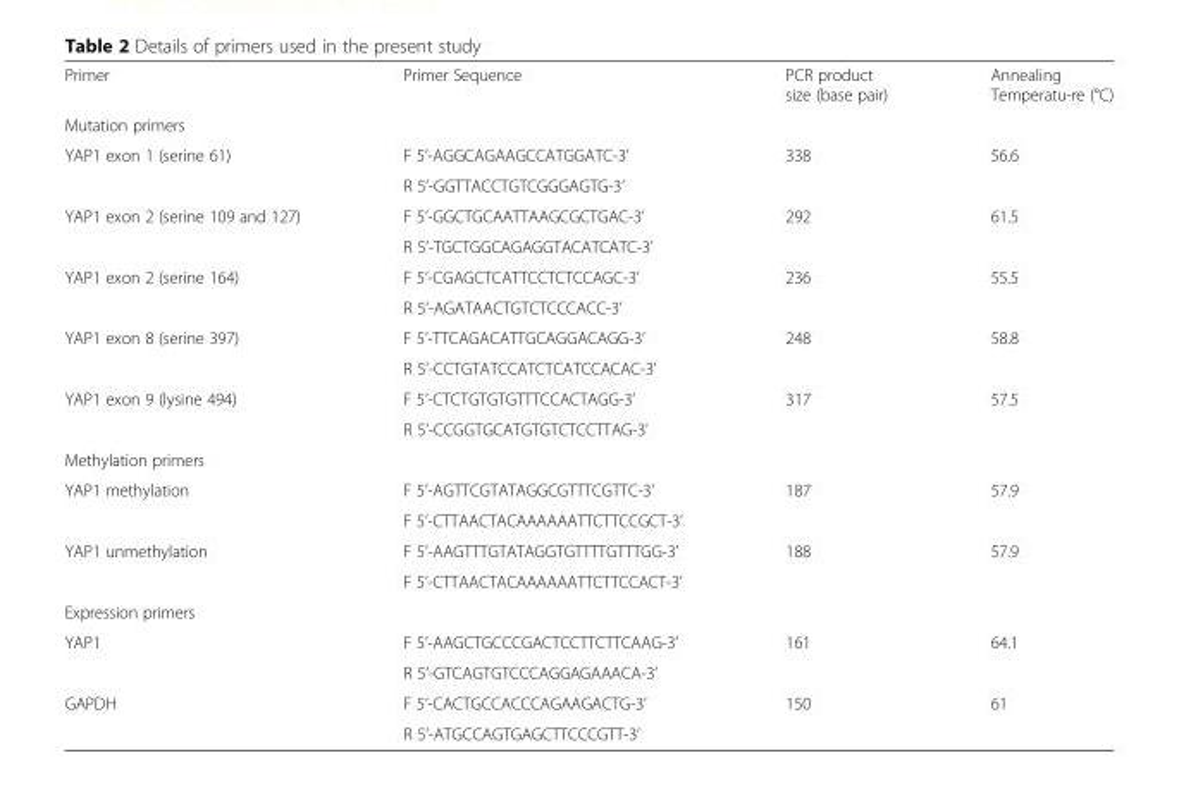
<table><tbody><tr><td>Primer</td><td>Primer Sequence</td><td>PCR product size (base pair)</td><td>Annealing Temperatu-re (°C)</td></tr><tr><td colspan="4">Mutation primers</td></tr><tr><td rowspan="2">YAP1 exon 1 (serine 61)</td><td>F 5’-AGGCAGAAGCCATGGATC-3’</td><td rowspan="2">338</td><td rowspan="2">56.6</td></tr><tr><td>R 5’-GGTTACCTGTCGGGAGTG-3’</td></tr><tr><td rowspan="2">YAP1 exon 2 (serine 109 and 127)</td><td>F 5’-GGCTGCAATTAAGCGCTGAC-3’</td><td rowspan="2">292</td><td rowspan="2">61.5</td></tr><tr><td>R 5’-TGCTGGCAGAGGTACATCATC-3’</td></tr><tr><td rowspan="2">YAP1 exon 2 (serine 164)</td><td>F 5’-CGAGCTCATTCCTCTCCAGC-3’</td><td rowspan="2">236</td><td rowspan="2">55.5</td></tr><tr><td>R 5’-AGATAACTGTCTCCCACC-3’</td></tr><tr><td rowspan="2">YAP1 exon 8 (serine 397)</td><td>F 5’-TTCAGACATTGCAGGACAGG-3’</td><td rowspan="2">248</td><td rowspan="2">58.8</td></tr><tr><td>R 5’-CCTGTATCCATCTCATCCACAC-3’</td></tr><tr><td rowspan="2">YAP1 exon 9 (lysine 494)</td><td>F 5’-CTCTGTGTGTTTCCACTAGG-3’</td><td rowspan="2">317</td><td rowspan="2">57.5</td></tr><tr><td>R 5’-CCGGTGCATGTGTCTCCTTAG-3’</td></tr><tr><td colspan="4">Methylation primers</td></tr><tr><td rowspan="2">YAP1 methylation</td><td>F 5’-AGTTCGTATAGGCGTTTCGTTC-3’</td><td rowspan="2">187</td><td rowspan="2">57.9</td></tr><tr><td>F 5’-CTTAACTACAAAAAATTCTTCCGCT-3’</td></tr><tr><td rowspan="2">YAP1 unmethylation</td><td>F 5’-AAGTTTGTATAGGTGTTTTGTTTGG-3’</td><td rowspan="2">188</td><td rowspan="2">57.9</td></tr><tr><td>F 5’-CTTAACTACAAAAAATTCTTCCACT-3’</td></tr><tr><td colspan="4">Expression primers</td></tr><tr><td rowspan="2">YAP1</td><td>F 5’-AAGCTGCCCGACTCCTTCTTCAAG-3’</td><td rowspan="2">161</td><td rowspan="2">64.1</td></tr><tr><td>R 5’-GTCAGTGTCCCAGGAGAAACA-3’</td></tr><tr><td rowspan="2">GAPDH</td><td>F 5’-CACTGCCACCCAGAAGACTG-3’</td><td rowspan="2">150</td><td rowspan="2">61</td></tr><tr><td>R 5’-ATGCCAGTGAGCTTCCCGTT-3’</td></tr></tbody></table>